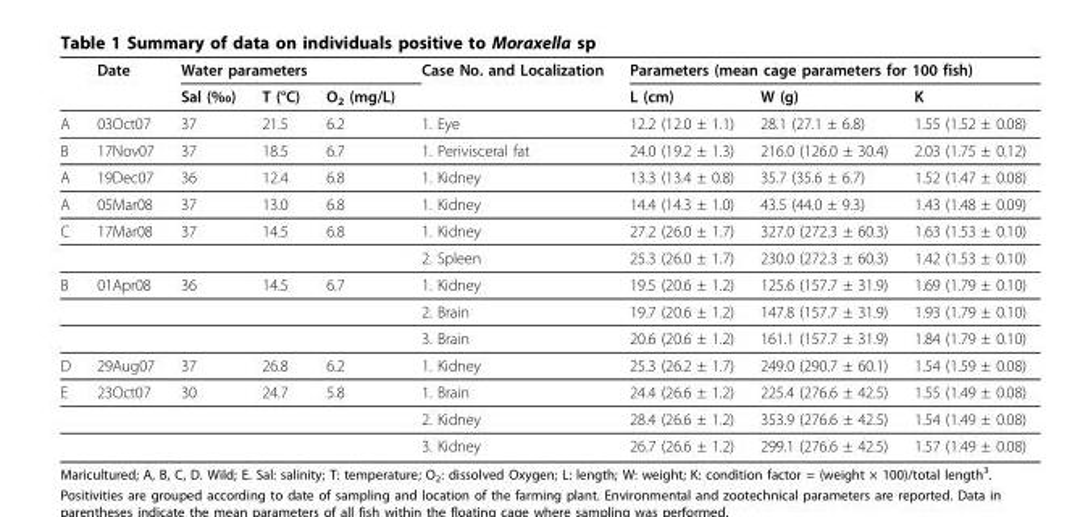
<table><thead><tr><td rowspan="2"></td><td rowspan="2">Date</td><td colspan="3">Water parameters</td><td rowspan="2">Case No. and Localization</td><td colspan="3">Parameters (mean cage parameters for 100 fish)</td></tr><tr><td>Sal (‰)</td><td>T (°C)</td><td>O<sub>2</sub> (mg/L)</td><td>L (cm)</td><td>W (g)</td><td>K</td></tr></thead><tbody><tr><td>A</td><td>03Oct07</td><td>37</td><td>21.5</td><td>6.2</td><td>1. Eye</td><td>12.2 (12.0 ± 1.1)</td><td>28.1 (27.1 ± 6.8)</td><td>1.55 (1.52 ± 0.08)</td></tr><tr><td>B</td><td>17Nov07</td><td>37</td><td>18.5</td><td>6.7</td><td>1. Perivisceral fat</td><td>24.0 (19.2 ± 1.3)</td><td>216.0 (126.0 ± 30.4)</td><td>2.03 (1.75 ± 0.12)</td></tr><tr><td>A</td><td>19Dec07</td><td>36</td><td>12.4</td><td>6.8</td><td>1. Kidney</td><td>13.3 (13.4 ± 0.8)</td><td>35.7 (35.6 ± 6.7)</td><td>1.52 (1.47 ± 0.08)</td></tr><tr><td>A</td><td>05Mar08</td><td>37</td><td>13.0</td><td>6.8</td><td>1. Kidney</td><td>14.4 (14.3 ± 1.0)</td><td>43.5 (44.0 ± 9.3)</td><td>1.43 (1.48 ± 0.09)</td></tr><tr><td rowspan="2">C</td><td>17Mar08</td><td>37</td><td>14.5</td><td>6.8</td><td>1. Kidney</td><td>27.2 (26.0 ± 1.7)</td><td>327.0 (272.3 ± 60.3)</td><td>1.63 (1.53 ± 0.10)</td></tr><tr><td></td><td></td><td></td><td></td><td>2. Spleen</td><td>25.3 (26.0 ± 1.7)</td><td>230.0 (272.3 ± 60.3)</td><td>1.42 (1.53 ± 0.10)</td></tr><tr><td rowspan="3">B</td><td>01Apr08</td><td>36</td><td>14.5</td><td>6.7</td><td>1. Kidney</td><td>19.5 (20.6 ± 1.2)</td><td>125.6 (157.7 ± 31.9)</td><td>1.69 (1.79 ± 0.10)</td></tr><tr><td></td><td></td><td></td><td></td><td>2. Brain</td><td>19.7 (20.6 ± 1.2)</td><td>147.8 (157.7 ± 31.9)</td><td>1.93 (1.79 ± 0.10)</td></tr><tr><td></td><td></td><td></td><td></td><td>3. Brain</td><td>20.6 (20.6 ± 1.2)</td><td>161.1 (157.7 ± 31.9)</td><td>1.84 (1.79 ± 0.10)</td></tr><tr><td>D</td><td>29Aug07</td><td>37</td><td>26.8</td><td>6.2</td><td>1. Kidney</td><td>25.3 (26.2 ± 1.7)</td><td>249.0 (290.7 ± 60.1)</td><td>1.54 (1.59 ± 0.08)</td></tr><tr><td rowspan="3">E</td><td>23Oct07</td><td>30</td><td>24.7</td><td>5.8</td><td>1. Brain</td><td>24.4 (26.6 ± 1.2)</td><td>225.4 (276.6 ± 42.5)</td><td>1.55 (1.49 ± 0.08)</td></tr><tr><td></td><td></td><td></td><td></td><td>2. Kidney</td><td>28.4 (26.6 ± 1.2)</td><td>353.9 (276.6 ± 42.5)</td><td>1.54 (1.49 ± 0.08)</td></tr><tr><td></td><td></td><td></td><td></td><td>3. Kidney</td><td>26.7 (26.6 ± 1.2)</td><td>299.1 (276.6 ± 42.5)</td><td>1.57 (1.49 ± 0.08)</td></tr></tbody></table>